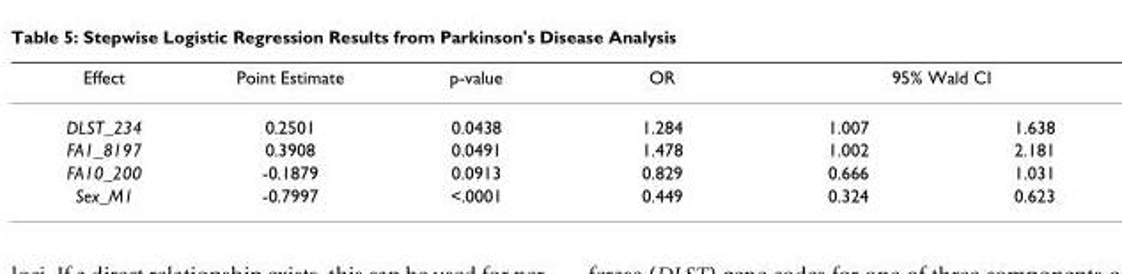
<table><thead><tr><td rowspan="2">Effect DLST_234</td><td rowspan="2">Point Estimate 0.2501</td><td rowspan="2">p-value 0.0438</td><td rowspan="2">OR 1.284</td><td colspan="2">95% Wald CI</td></tr><tr><td>1.007</td><td>1.638</td></tr></thead><tbody><tr><td>FA1_8197</td><td>0.3908</td><td>0.0491</td><td>1.478</td><td>1.002</td><td>2.181</td></tr><tr><td>FA10_200</td><td>-0.1879</td><td>0.0913</td><td>0.829</td><td>0.666</td><td>1.031</td></tr><tr><td>Sex_M1</td><td>-0.7997</td><td>&lt;.0001</td><td>0.449</td><td>0.324</td><td>0.623</td></tr></tbody></table>